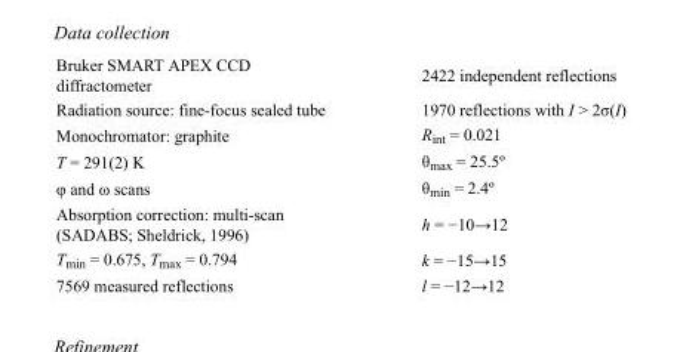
<table><tbody><tr><td>Bruker SMART APEX CCD diffractometer</td><td>2422 independent reflections</td></tr><tr><td>Radiation source: fine-focus sealed tube</td><td>1970 reflections with I &gt; 2σ(I)</td></tr><tr><td>Monochromator: graphite</td><td>R<sub>int</sub> = 0.021</td></tr><tr><td>T = 291(2) K</td><td>θ<sub>max</sub> = 25.5º</td></tr><tr><td>φ and ω scans</td><td>θ<sub>min</sub> = 2.4º</td></tr><tr><td>Absorption correction: multi-scan (SADABS; Sheldrick, 1996)</td><td>h = −10→12</td></tr><tr><td>T<sub>min</sub> = 0.675, T<sub>max</sub> = 0.794</td><td>k = −15→15</td></tr><tr><td>7569 measured reflections</td><td>l = −12→12</td></tr></tbody></table>